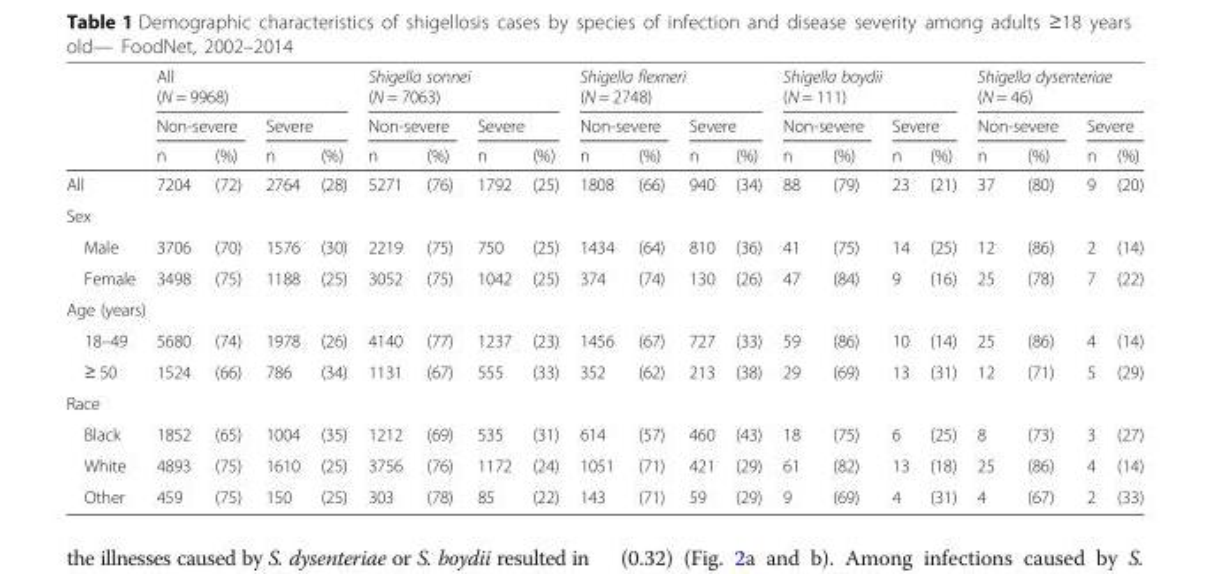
<table><thead><tr><td rowspan="4"></td><td rowspan="2" colspan="4">All (N = 9968)</td><td rowspan="2" colspan="4">Shigella sonnei (N = 7063)</td><td rowspan="2" colspan="4">Shigella flexneri (N = 2748)</td><td rowspan="2" colspan="4">Shigella boydii (N = 111)</td><td rowspan="2" colspan="4">Shigella dysenteriae (N = 46)</td></tr><tr></tr><tr><td colspan="2">Non-severe</td><td colspan="2">Severe</td><td colspan="2">Non-severe</td><td colspan="2">Severe</td><td colspan="2">Non-severe</td><td colspan="2">Severe</td><td colspan="2">Non-severe</td><td colspan="2">Severe</td><td colspan="2">Non-severe</td><td colspan="2">Severe</td></tr><tr><td>n</td><td>(%)</td><td>n</td><td>(%)</td><td>n</td><td>(%)</td><td>n</td><td>(%)</td><td>n</td><td>(%)</td><td>n</td><td>(%)</td><td>n</td><td>(%)</td><td>n</td><td>(%)</td><td>n</td><td>(%)</td><td>n</td><td>(%)</td></tr></thead><tbody><tr><td>All</td><td>7204</td><td>(72)</td><td>2764</td><td>(28)</td><td>5271</td><td>(76)</td><td>1792</td><td>(25)</td><td>1808</td><td>(66)</td><td>940</td><td>(34)</td><td>88</td><td>(79)</td><td>23</td><td>(21)</td><td>37</td><td>(80)</td><td>9</td><td>(20)</td></tr><tr><td colspan="21">Sex</td></tr><tr><td>Male</td><td>3706</td><td>(70)</td><td>1576</td><td>(30)</td><td>2219</td><td>(75)</td><td>750</td><td>(25)</td><td>1434</td><td>(64)</td><td>810</td><td>(36)</td><td>41</td><td>(75)</td><td>14</td><td>(25)</td><td>12</td><td>(86)</td><td>2</td><td>(14)</td></tr><tr><td>Female</td><td>3498</td><td>(75)</td><td>1188</td><td>(25)</td><td>3052</td><td>(75)</td><td>1042</td><td>(25)</td><td>374</td><td>(74)</td><td>130</td><td>(26)</td><td>47</td><td>(84)</td><td>9</td><td>(16)</td><td>25</td><td>(78)</td><td>7</td><td>(22)</td></tr><tr><td colspan="21">Age (years)</td></tr><tr><td>18–49</td><td>5680</td><td>(74)</td><td>1978</td><td>(26)</td><td>4140</td><td>(77)</td><td>1237</td><td>(23)</td><td>1456</td><td>(67)</td><td>727</td><td>(33)</td><td>59</td><td>(86)</td><td>10</td><td>(14)</td><td>25</td><td>(86)</td><td>4</td><td>(14)</td></tr><tr><td>≥ 50</td><td>1524</td><td>(66)</td><td>786</td><td>(34)</td><td>1131</td><td>(67)</td><td>555</td><td>(33)</td><td>352</td><td>(62)</td><td>213</td><td>(38)</td><td>29</td><td>(69)</td><td>13</td><td>(31)</td><td>12</td><td>(71)</td><td>5</td><td>(29)</td></tr><tr><td colspan="21">Race</td></tr><tr><td>Black</td><td>1852</td><td>(65)</td><td>1004</td><td>(35)</td><td>1212</td><td>(69)</td><td>535</td><td>(31)</td><td>614</td><td>(57)</td><td>460</td><td>(43)</td><td>18</td><td>(75)</td><td>6</td><td>(25)</td><td>8</td><td>(73)</td><td>3</td><td>(27)</td></tr><tr><td>White</td><td>4893</td><td>(75)</td><td>1610</td><td>(25)</td><td>3756</td><td>(76)</td><td>1172</td><td>(24)</td><td>1051</td><td>(71)</td><td>421</td><td>(29)</td><td>61</td><td>(82)</td><td>13</td><td>(18)</td><td>25</td><td>(86)</td><td>4</td><td>(14)</td></tr><tr><td>Other</td><td>459</td><td>(75)</td><td>150</td><td>(25)</td><td>303</td><td>(78)</td><td>85</td><td>(22)</td><td>143</td><td>(71)</td><td>59</td><td>(29)</td><td>9</td><td>(69)</td><td>4</td><td>(31)</td><td>4</td><td>(67)</td><td>2</td><td>(33)</td></tr></tbody></table>